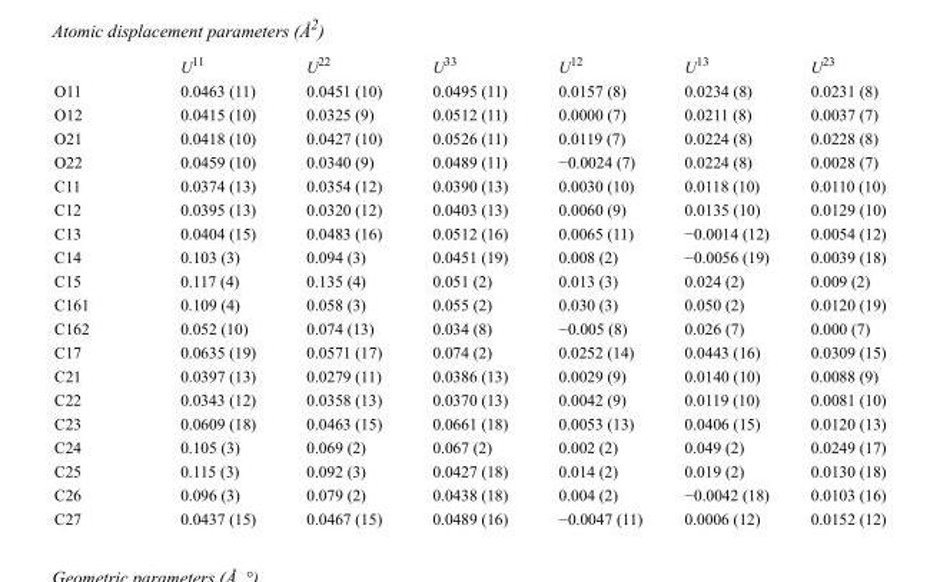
<table><thead><tr><td></td><td>U<sup>11</sup></td><td>U<sup>22</sup></td><td>U<sup>33</sup></td><td>U<sup>12</sup></td><td>U<sup>13</sup></td><td>U<sup>23</sup></td></tr></thead><tbody><tr><td>O11</td><td>0.0463 (11)</td><td>0.0451 (10)</td><td>0.0495 (11)</td><td>0.0157 (8)</td><td>0.0234 (8)</td><td>0.0231 (8)</td></tr><tr><td>O12</td><td>0.0415 (10)</td><td>0.0325 (9)</td><td>0.0512 (11)</td><td>0.0000 (7)</td><td>0.0211 (8)</td><td>0.0037 (7)</td></tr><tr><td>O21</td><td>0.0418 (10)</td><td>0.0427 (10)</td><td>0.0526 (11)</td><td>0.0119 (7)</td><td>0.0224 (8)</td><td>0.0228 (8)</td></tr><tr><td>O22</td><td>0.0459 (10)</td><td>0.0340 (9)</td><td>0.0489 (11)</td><td>−0.0024 (7)</td><td>0.0224 (8)</td><td>0.0028 (7)</td></tr><tr><td>C11</td><td>0.0374 (13)</td><td>0.0354 (12)</td><td>0.0390 (13)</td><td>0.0030 (10)</td><td>0.0118 (10)</td><td>0.0110 (10)</td></tr><tr><td>C12</td><td>0.0395 (13)</td><td>0.0320 (12)</td><td>0.0403 (13)</td><td>0.0060 (9)</td><td>0.0135 (10)</td><td>0.0129 (10)</td></tr><tr><td>C13</td><td>0.0404 (15)</td><td>0.0483 (16)</td><td>0.0512 (16)</td><td>0.0065 (11)</td><td>−0.0014 (12)</td><td>0.0054 (12)</td></tr><tr><td>C14</td><td>0.103 (3)</td><td>0.094 (3)</td><td>0.0451 (19)</td><td>0.008 (2)</td><td>−0.0056 (19)</td><td>0.0039 (18)</td></tr><tr><td>C15</td><td>0.117 (4)</td><td>0.135 (4)</td><td>0.051 (2)</td><td>0.013 (3)</td><td>0.024 (2)</td><td>0.009 (2)</td></tr><tr><td>C161</td><td>0.109 (4)</td><td>0.058 (3)</td><td>0.055 (2)</td><td>0.030 (3)</td><td>0.050 (2)</td><td>0.0120 (19)</td></tr><tr><td>C162</td><td>0.052 (10)</td><td>0.074 (13)</td><td>0.034 (8)</td><td>−0.005 (8)</td><td>0.026 (7)</td><td>0.000 (7)</td></tr><tr><td>C17</td><td>0.0635 (19)</td><td>0.0571 (17)</td><td>0.074 (2)</td><td>0.0252 (14)</td><td>0.0443 (16)</td><td>0.0309 (15)</td></tr><tr><td>C21</td><td>0.0397 (13)</td><td>0.0279 (11)</td><td>0.0386 (13)</td><td>0.0029 (9)</td><td>0.0140 (10)</td><td>0.0088 (9)</td></tr><tr><td>C22</td><td>0.0343 (12)</td><td>0.0358 (13)</td><td>0.0370 (13)</td><td>0.0042 (9)</td><td>0.0119 (10)</td><td>0.0081 (10)</td></tr><tr><td>C23</td><td>0.0609 (18)</td><td>0.0463 (15)</td><td>0.0661 (18)</td><td>0.0053 (13)</td><td>0.0406 (15)</td><td>0.0120 (13)</td></tr><tr><td>C24</td><td>0.105 (3)</td><td>0.069 (2)</td><td>0.067 (2)</td><td>0.002 (2)</td><td>0.049 (2)</td><td>0.0249 (17)</td></tr><tr><td>C25</td><td>0.115 (3)</td><td>0.092 (3)</td><td>0.0427 (18)</td><td>0.014 (2)</td><td>0.019 (2)</td><td>0.0130 (18)</td></tr><tr><td>C26</td><td>0.096 (3)</td><td>0.079 (2)</td><td>0.0438 (18)</td><td>0.004 (2)</td><td>−0.0042 (18)</td><td>0.0103 (16)</td></tr><tr><td>C27</td><td>0.0437 (15)</td><td>0.0467 (15)</td><td>0.0489 (16)</td><td>−0.0047 (11)</td><td>0.0006 (12)</td><td>0.0152 (12)</td></tr></tbody></table>